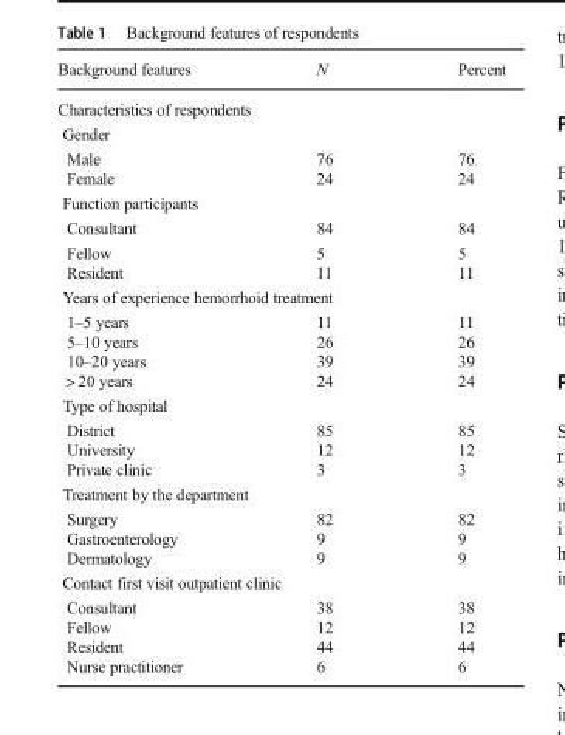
<table><thead><tr><td>Background features</td><td>N</td><td>Percent</td></tr></thead><tbody><tr><td colspan="3">Characteristics of respondents</td></tr><tr><td colspan="3">Gender</td></tr><tr><td>Male Female</td><td>76 24</td><td>76 24</td></tr><tr><td colspan="3">Function participants</td></tr><tr><td>Consultant</td><td>84</td><td>84</td></tr><tr><td>Fellow Resident</td><td>5 11</td><td>5 11</td></tr><tr><td colspan="3">Years of experience hemorrhoid treatment</td></tr><tr><td>1–5 years 5–10 years 10–20 years &gt; 20 years</td><td>11 26 39 24</td><td>11 26 39 24</td></tr><tr><td colspan="3">Type of hospital</td></tr><tr><td>District University Private clinic</td><td>85 12 3</td><td>85 12 3</td></tr><tr><td colspan="3">Treatment by the department</td></tr><tr><td>Surgery Gastroenterology Dermatology</td><td>82 9 9</td><td>82 9 9</td></tr><tr><td colspan="3">Contact first visit outpatient clinic</td></tr><tr><td>Consultant Fellow Resident Nurse practitioner</td><td>38 12 44 6</td><td>38 12 44 6</td></tr></tbody></table>